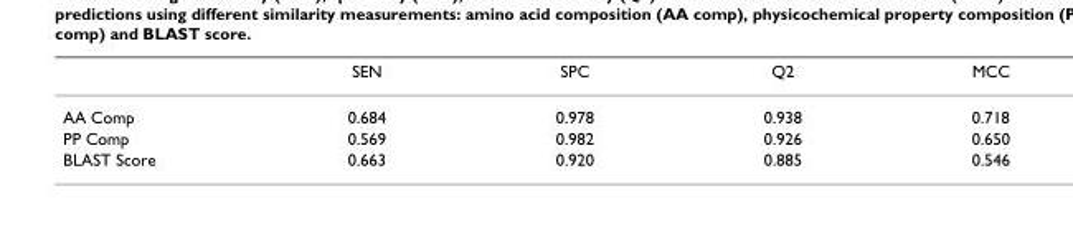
<table><thead><tr><td></td><td>SEN</td><td>SPC</td><td>Q2</td><td>MCC</td></tr></thead><tbody><tr><td>AA Comp</td><td>0.684</td><td>0.978</td><td>0.938</td><td>0.718</td></tr><tr><td>PP Comp</td><td>0.569</td><td>0.982</td><td>0.926</td><td>0.650</td></tr><tr><td>BLAST Score</td><td>0.663</td><td>0.920</td><td>0.885</td><td>0.546</td></tr></tbody></table>